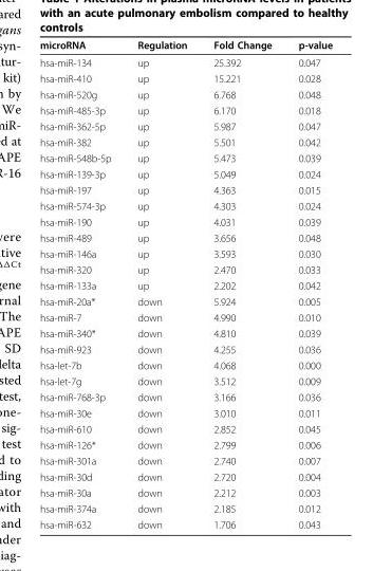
<table><thead><tr><td>microRNA</td><td>Regulation</td><td>Fold Change</td><td>p-value</td></tr></thead><tbody><tr><td>hsa-miR-134</td><td>up</td><td>25.392</td><td>0.047</td></tr><tr><td>hsa-miR-410</td><td>up</td><td>15.221</td><td>0.028</td></tr><tr><td>hsa-miR-520g</td><td>up</td><td>6.768</td><td>0.048</td></tr><tr><td>hsa-miR-485-3p</td><td>up</td><td>6.170</td><td>0.018</td></tr><tr><td>hsa-miR-362-5p</td><td>up</td><td>5.987</td><td>0.047</td></tr><tr><td>hsa-miR-382</td><td>up</td><td>5.501</td><td>0.042</td></tr><tr><td>hsa-miR-548b-5p</td><td>up</td><td>5.473</td><td>0.039</td></tr><tr><td>hsa-miR-139-3p</td><td>up</td><td>5.049</td><td>0.024</td></tr><tr><td>hsa-miR-197</td><td>up</td><td>4.363</td><td>0.015</td></tr><tr><td>hsa-miR-574-3p</td><td>up</td><td>4.303</td><td>0.024</td></tr><tr><td>hsa-miR-190</td><td>up</td><td>4.031</td><td>0.039</td></tr><tr><td>hsa-miR-489</td><td>up</td><td>3.656</td><td>0.048</td></tr><tr><td>hsa-miR-146a</td><td>up</td><td>3.593</td><td>0.030</td></tr><tr><td>hsa-miR-320</td><td>up</td><td>2.470</td><td>0.033</td></tr><tr><td>hsa-miR-133a</td><td>up</td><td>2.202</td><td>0.042</td></tr><tr><td>hsa-miR-20a*</td><td>down</td><td>5.924</td><td>0.005</td></tr><tr><td>hsa-miR-7</td><td>down</td><td>4.990</td><td>0.010</td></tr><tr><td>hsa-miR-340*</td><td>down</td><td>4.810</td><td>0.039</td></tr><tr><td>hsa-miR-923</td><td>down</td><td>4.255</td><td>0.036</td></tr><tr><td>hsa-let-7b</td><td>down</td><td>4.068</td><td>0.000</td></tr><tr><td>hsa-let-7g</td><td>down</td><td>3.512</td><td>0.009</td></tr><tr><td>hsa-miR-768-3p</td><td>down</td><td>3.166</td><td>0.036</td></tr><tr><td>hsa-miR-30e</td><td>down</td><td>3.010</td><td>0.011</td></tr><tr><td>hsa-miR-610</td><td>down</td><td>2.852</td><td>0.045</td></tr><tr><td>hsa-miR-126*</td><td>down</td><td>2.799</td><td>0.006</td></tr><tr><td>hsa-miR-301a</td><td>down</td><td>2.740</td><td>0.007</td></tr><tr><td>hsa-miR-30d</td><td>down</td><td>2.720</td><td>0.004</td></tr><tr><td>hsa-miR-30a</td><td>down</td><td>2.212</td><td>0.003</td></tr><tr><td>hsa-miR-374a</td><td>down</td><td>2.185</td><td>0.012</td></tr><tr><td>hsa-miR-632</td><td>down</td><td>1.706</td><td>0.043</td></tr></tbody></table>